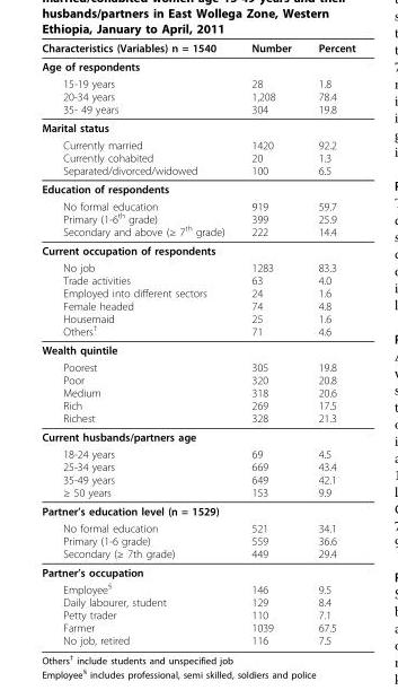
<table><thead><tr><td>Characteristics (Variables) n = 1540</td><td>Number</td><td>Percent</td></tr></thead><tbody><tr><td colspan="3">Age of respondents</td></tr><tr><td>15-19 years 20-34 years 35- 49 years</td><td>28 1,208 304</td><td>1.8 78.4 19.8</td></tr><tr><td colspan="3">Marital status</td></tr><tr><td>Currently married Currently cohabited Separated/divorced/widowed</td><td>1420 20 100</td><td>92.2 1.3 6.5</td></tr><tr><td colspan="3">Education of respondents</td></tr><tr><td>No formal education Primary (1-6<sup>th</sup> grade) Secondary and above (≥ 7<sup>th</sup> grade)</td><td>919 399 222</td><td>59.7 25.9 14.4</td></tr><tr><td colspan="3">Current occupation of respondents</td></tr><tr><td>No job Trade activities Employed into different sectors Female headed Housemaid Others<sup>†</sup></td><td>1283 63 24 74 25 71</td><td>83.3 4.0 1.6 4.8 1.6 4.6</td></tr><tr><td colspan="3">Wealth quintile</td></tr><tr><td>Poorest Poor Medium Rich Richest</td><td>305 320 318 269 328</td><td>19.8 20.8 20.6 17.5 21.3</td></tr><tr><td colspan="3">Current husbands/partners age</td></tr><tr><td>18-24 years 25-34 years 35-49 years ≥ 50 years</td><td>69 669 649 153</td><td>4.5 43.4 42.1 9.9</td></tr><tr><td colspan="3">Partner’s education level (n = 1529)</td></tr><tr><td>No formal education Primary (1-6 grade) Secondary (≥ 7th grade)</td><td>521 559 449</td><td>34.1 36.6 29.4</td></tr><tr><td colspan="3">Partner’s occupation</td></tr><tr><td>Employee<sup>§</sup> Daily labourer, student Petty trader Farmer No job, retired</td><td>146 129 110 1039 116</td><td>9.5 8.4 7.1 67.5 7.5</td></tr></tbody></table>